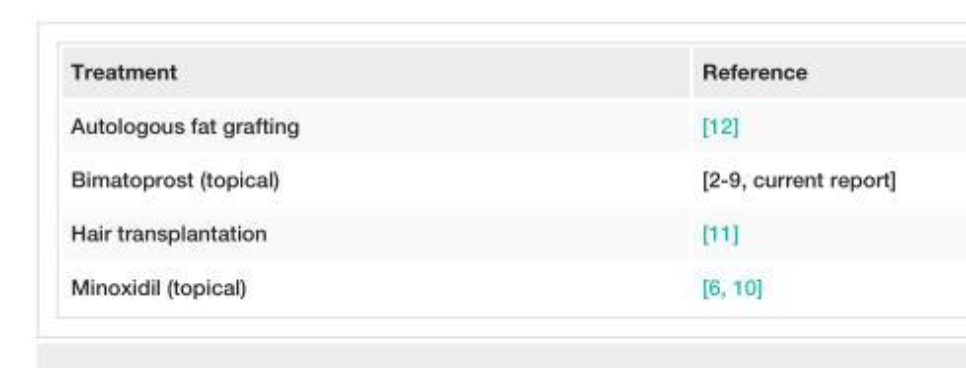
<table><tbody><tr><td>Treatment</td><td>Reference</td></tr><tr><td>Autologous fat grafting</td><td>[12]</td></tr><tr><td>Bimatoprost (topical)</td><td>[2-9, current report]</td></tr><tr><td>Hair transplantation</td><td>[11]</td></tr><tr><td>Minoxidil (topical)</td><td>[6, 10]</td></tr></tbody></table>